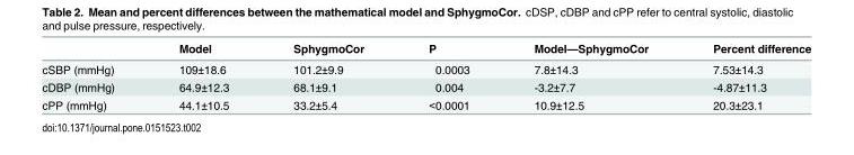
<table><thead><tr><td></td><td>Model</td><td>SphygmoCor</td><td>P</td><td>Model—SphygmoCor</td><td>Percent difference</td></tr></thead><tbody><tr><td>cSBP (mmHg)</td><td>109±18.6</td><td>101.2±9.9</td><td>0.0003</td><td>7.8±14.3</td><td>7.53±14.3</td></tr><tr><td>cDBP (mmHg)</td><td>64.9±12.3</td><td>68.1±9.1</td><td>0.004</td><td>-3.2±7.7</td><td>-4.87±11.3</td></tr><tr><td>cPP (mmHg)</td><td>44.1±10.5</td><td>33.2±5.4</td><td>&lt;0.0001</td><td>10.9±12.5</td><td>20.3±23.1</td></tr></tbody></table>